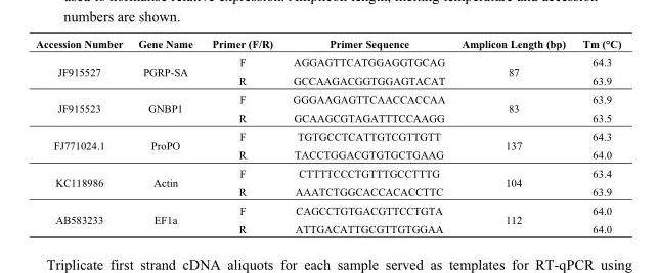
<table><thead><tr><td>Accession Number</td><td>Gene Name</td><td>Primer (F/R)</td><td>Primer Sequence</td><td>Amplicon Length (bp)</td><td>Tm (°C)</td></tr></thead><tbody><tr><td rowspan="2">JF915527</td><td rowspan="2">PGRP-SA</td><td>F</td><td>AGGAGTTCATGGAGGTGCAG</td><td rowspan="2">87</td><td>64.3</td></tr><tr><td>R</td><td>GCCAAGACGGTGGAGTACAT</td><td>63.9</td></tr><tr><td rowspan="2">JF915523</td><td rowspan="2">GNBP1</td><td>F</td><td>GGGAAGAGTTCAACCACCAA</td><td rowspan="2">83</td><td>63.9</td></tr><tr><td>R</td><td>GCAAGCGTAGATTTCCAAGG</td><td>63.5</td></tr><tr><td rowspan="2">FJ771024.1</td><td rowspan="2">ProPO</td><td>F</td><td>TGTGCCTCATTGTCGTTGTT</td><td rowspan="2">137</td><td>64.3</td></tr><tr><td>R</td><td>TACCTGGACGTGTGCTGAAG</td><td>64.0</td></tr><tr><td rowspan="2">KC118986</td><td rowspan="2">Actin</td><td>F</td><td>CTTTTCCCTGTTTGCCTTTG</td><td rowspan="2">104</td><td>63.4</td></tr><tr><td>R</td><td>AAATCTGGCACCACACCTTC</td><td>63.9</td></tr><tr><td rowspan="2">AB583233</td><td rowspan="2">EF1a</td><td>F</td><td>CAGCCTGTGACGTTCCTGTA</td><td rowspan="2">112</td><td>64.0</td></tr><tr><td>R</td><td>ATTGACATTGCGTTGTGGAA</td><td>64.0</td></tr></tbody></table>